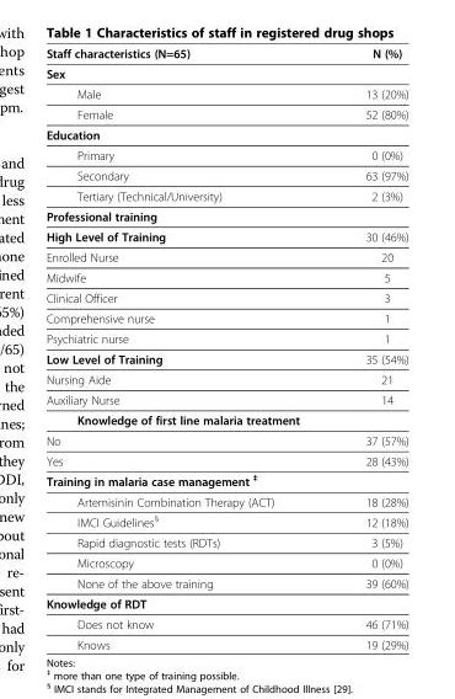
<table><thead><tr><td>Staff characteristics (N=65)</td><td>N (%)</td></tr></thead><tbody><tr><td colspan="2">Sex</td></tr><tr><td>Male</td><td>13 (20%)</td></tr><tr><td>Female</td><td>52 (80%)</td></tr><tr><td colspan="2">Education</td></tr><tr><td>Primary</td><td>0 (0%)</td></tr><tr><td>Secondary</td><td>63 (97%)</td></tr><tr><td>Tertiary (Technical/University)</td><td>2 (3%)</td></tr><tr><td colspan="2">Professional training</td></tr><tr><td>High Level of Training</td><td>30 (46%)</td></tr><tr><td>Enrolled Nurse</td><td>20</td></tr><tr><td>Midwife</td><td>5</td></tr><tr><td>Clinical Officer</td><td>3</td></tr><tr><td>Comprehensive nurse</td><td>1</td></tr><tr><td>Psychiatric nurse</td><td>1</td></tr><tr><td>Low Level of Training</td><td>35 (54%)</td></tr><tr><td>Nursing Aide</td><td>21</td></tr><tr><td>Auxiliary Nurse</td><td>14</td></tr><tr><td colspan="2">Knowledge of first line malaria treatment</td></tr><tr><td>No</td><td>37 (57%)</td></tr><tr><td>Yes</td><td>28 (43%)</td></tr><tr><td colspan="2">Training in malaria case management <sup>‡</sup></td></tr><tr><td>Artemisinin Combination Therapy (ACT)</td><td>18 (28%)</td></tr><tr><td>IMCI Guidelines<sup>§</sup></td><td>12 (18%)</td></tr><tr><td>Rapid diagnostic tests (RDTs)</td><td>3 (5%)</td></tr><tr><td>Microscopy</td><td>0 (0%)</td></tr><tr><td>None of the above training</td><td>39 (60%)</td></tr><tr><td colspan="2">Knowledge of RDT</td></tr><tr><td>Does not know</td><td>46 (71%)</td></tr><tr><td>Knows</td><td>19 (29%)</td></tr></tbody></table>